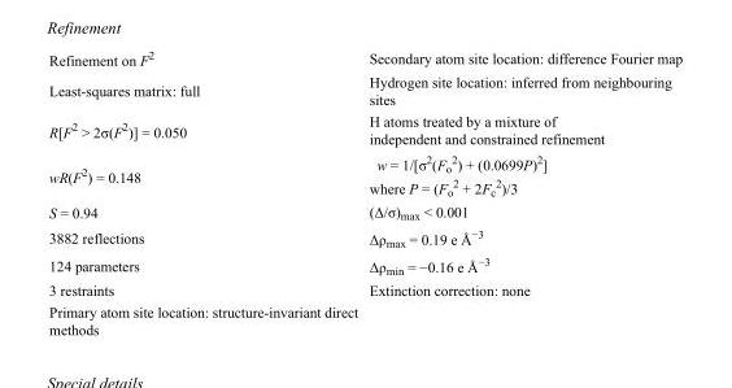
<table><tbody><tr><td>Refinement on F<sup>2</sup></td><td>Secondary atom site location: difference Fourier map</td></tr><tr><td>Least-squares matrix: full</td><td>Hydrogen site location: inferred from neighbouring sites</td></tr><tr><td>R[F<sup>2</sup> &gt; 2σ(F<sup>2</sup>)] = 0.050</td><td>H atoms treated by a mixture of independent and constrained refinement</td></tr><tr><td>wR(F<sup>2</sup>) = 0.148</td><td>w = 1/[σ<sup>2</sup>(F<sub>o</sub> <sup>2</sup>) + (0.0699P)<sup>2</sup>] where P = (F<sub>o</sub> <sup>2</sup> + 2F<sub>c</sub> <sup>2</sup>)/3</td></tr><tr><td>S = 0.94</td><td>(Δ/σ)<sub>max</sub> &lt; 0.001</td></tr><tr><td>3882 reflections</td><td>Δρ<sub>max</sub> = 0.19 e Å<sup>−3</sup></td></tr><tr><td>124 parameters</td><td>Δρ<sub>min</sub> = −0.16 e Å<sup>−3</sup></td></tr><tr><td>3 restraints</td><td>Extinction correction: none</td></tr><tr><td>Primary atom site location: structure-invariant direct methods</td><td></td></tr></tbody></table>